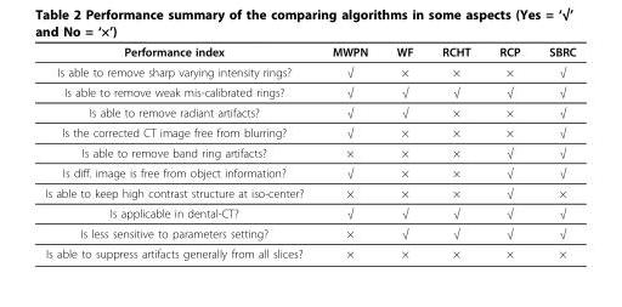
<table><thead><tr><td>Performance index</td><td>MWPN</td><td>WF</td><td>RCHT</td><td>RCP</td><td>SBRC</td></tr></thead><tbody><tr><td>Is able to remove sharp varying intensity rings?</td><td>√</td><td>×</td><td>×</td><td>×</td><td>√</td></tr><tr><td>Is able to remove weak mis-calibrated rings?</td><td>√</td><td>√</td><td>√</td><td>√</td><td>√</td></tr><tr><td>Is able to remove radiant artifacts?</td><td>√</td><td>√</td><td>×</td><td>×</td><td>√</td></tr><tr><td>Is the corrected CT image free from blurring?</td><td>√</td><td>×</td><td>×</td><td>×</td><td>√</td></tr><tr><td>Is able to remove band ring artifacts?</td><td>×</td><td>×</td><td>×</td><td>√</td><td>√</td></tr><tr><td>Is diff. image is free from object information?</td><td>√</td><td>×</td><td>×</td><td>√</td><td>√</td></tr><tr><td>Is able to keep high contrast structure at iso-center?</td><td>×</td><td>×</td><td>×</td><td>√</td><td>×</td></tr><tr><td>Is applicable in dental-CT?</td><td>√</td><td>√</td><td>√</td><td>√</td><td>√</td></tr><tr><td>Is less sensitive to parameters setting?</td><td>×</td><td>√</td><td>√</td><td>√</td><td>√</td></tr><tr><td>Is able to suppress artifacts generally from all slices?</td><td>×</td><td>×</td><td>×</td><td>×</td><td>×</td></tr></tbody></table>